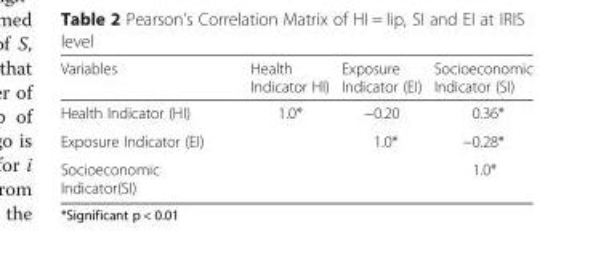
<table><thead><tr><td>Variables</td><td>Health Indicator HI)</td><td>Exposure Indicator (EI)</td><td>Socioeconomic Indicator (SI)</td></tr></thead><tbody><tr><td>Health Indicator (HI)</td><td>1.0*</td><td>−0.20</td><td>0.36*</td></tr><tr><td>Exposure Indicator (EI)</td><td></td><td>1.0*</td><td>−0.28*</td></tr><tr><td>Socioeconomic Indicator(SI)</td><td></td><td></td><td>1.0*</td></tr></tbody></table>